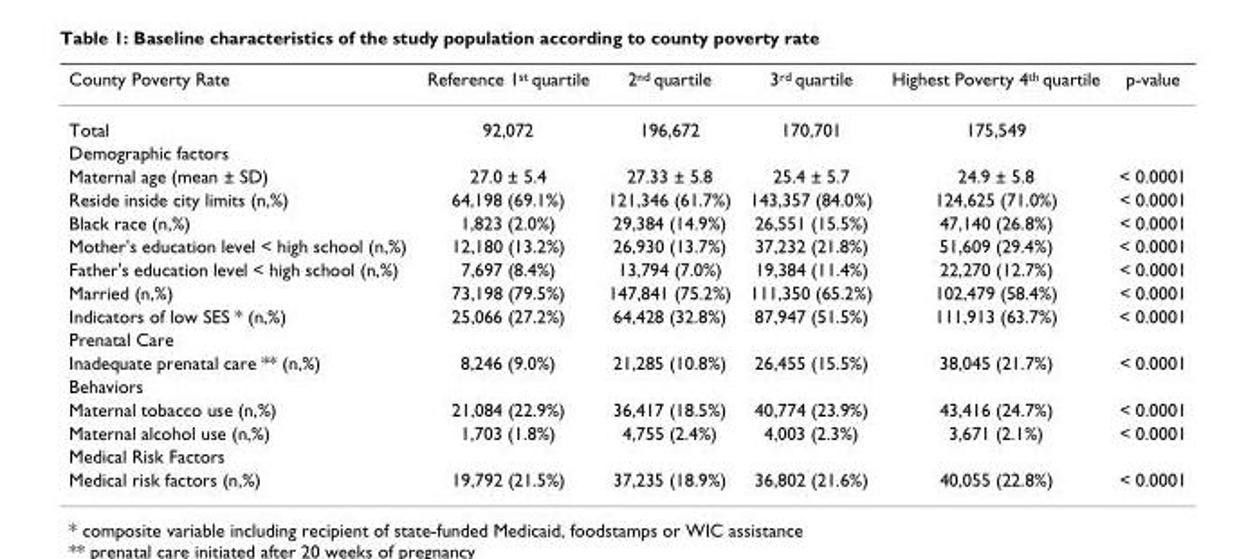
<table><thead><tr><td>County Poverty Rate</td><td>Reference 1<sup>st</sup> quartile</td><td>2<sup>nd</sup> quartile</td><td>3<sup>rd</sup> quartile</td><td>Highest Poverty 4<sup>th</sup> quartile</td><td>p-value</td></tr></thead><tbody><tr><td>Total</td><td>92,072</td><td>196,672</td><td>170,701</td><td>175,549</td><td></td></tr><tr><td colspan="6">Demographic factors</td></tr><tr><td>Maternal age (mean ± SD)</td><td>27.0 ± 5.4</td><td>27.33 ± 5.8</td><td>25.4 ± 5.7</td><td>24.9 ± 5.8</td><td>&lt; 0.0001</td></tr><tr><td>Reside inside city limits (n,%)</td><td>64,198 (69.1%)</td><td>121,346 (61.7%)</td><td>143,357 (84.0%)</td><td>124,625 (71.0%)</td><td>&lt; 0.0001</td></tr><tr><td>Black race (n,%)</td><td>1,823 (2.0%)</td><td>29,384 (14.9%)</td><td>26,551 (15.5%)</td><td>47,140 (26.8%)</td><td>&lt; 0.0001</td></tr><tr><td>Mother&#x27;s education level &lt; high school (n,%)</td><td>12,180 (13.2%)</td><td>26,930 (13.7%)</td><td>37,232 (21.8%)</td><td>51,609 (29.4%)</td><td>&lt; 0.0001</td></tr><tr><td>Father&#x27;s education level &lt; high school (n,%)</td><td>7,697 (8.4%)</td><td>13,794 (7.0%)</td><td>19,384 (11.4%)</td><td>22,270 (12.7%)</td><td>&lt; 0.0001</td></tr><tr><td>Married (n,%)</td><td>73,198 (79.5%)</td><td>147,841 (75.2%)</td><td>111,350 (65.2%)</td><td>102,479 (58.4%)</td><td>&lt; 0.0001</td></tr><tr><td>Indicators of low SES * (n,%)</td><td>25,066 (27.2%)</td><td>64,428 (32.8%)</td><td>87,947 (51.5%)</td><td>111,913 (63.7%)</td><td>&lt; 0.0001</td></tr><tr><td colspan="6">Prenatal Care</td></tr><tr><td>Inadequate prenatal care ** (n,%)</td><td>8,246 (9.0%)</td><td>21,285 (10.8%)</td><td>26,455 (15.5%)</td><td>38,045 (21.7%)</td><td>&lt; 0.0001</td></tr><tr><td colspan="6">Behaviors</td></tr><tr><td>Maternal tobacco use (n,%)</td><td>21,084 (22.9%)</td><td>36,417 (18.5%)</td><td>40,774 (23.9%)</td><td>43,416 (24.7%)</td><td>&lt; 0.0001</td></tr><tr><td>Maternal alcohol use (n,%)</td><td>1,703 (1.8%)</td><td>4,755 (2.4%)</td><td>4,003 (2.3%)</td><td>3,671 (2.1%)</td><td>&lt; 0.0001</td></tr><tr><td colspan="6">Medical Risk Factors</td></tr><tr><td>Medical risk factors (n,%)</td><td>19,792 (21.5%)</td><td>37,235 (18.9%)</td><td>36,802 (21.6%)</td><td>40,055 (22.8%)</td><td>&lt; 0.0001</td></tr></tbody></table>